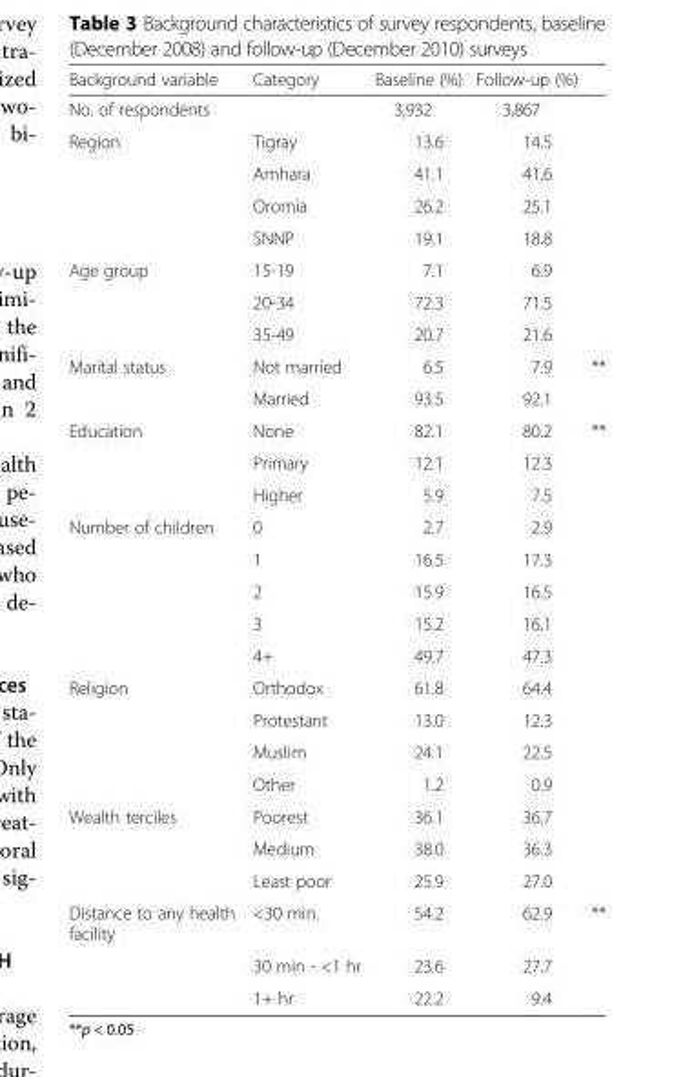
<table><thead><tr><td>Background variable</td><td>Category</td><td>Baseline (%)</td><td>Follow-up (%)</td><td></td></tr></thead><tbody><tr><td>No. of respondents</td><td></td><td>3,932</td><td>3,867</td><td></td></tr><tr><td rowspan="4">Region</td><td>Tigray</td><td>13.6</td><td>14.5</td><td></td></tr><tr><td>Amhara</td><td>41.1</td><td>41.6</td><td></td></tr><tr><td>Oromia</td><td>26.2</td><td>25.1</td><td></td></tr><tr><td>SNNP</td><td>19.1</td><td>18.8</td><td></td></tr><tr><td rowspan="3">Age group</td><td>15-19</td><td>7.1</td><td>6.9</td><td></td></tr><tr><td>20-34</td><td>72.3</td><td>71.5</td><td></td></tr><tr><td>35-49</td><td>20.7</td><td>21.6</td><td></td></tr><tr><td rowspan="2">Marital status</td><td>Not married</td><td>6.5</td><td>7.9</td><td>**</td></tr><tr><td>Married</td><td>93.5</td><td>92.1</td><td></td></tr><tr><td rowspan="3">Education</td><td>None</td><td>82.1</td><td>80.2</td><td>**</td></tr><tr><td>Primary</td><td>12.1</td><td>12.3</td><td></td></tr><tr><td>Higher</td><td>5.9</td><td>7.5</td><td></td></tr><tr><td rowspan="5">Number of children</td><td>0</td><td>2.7</td><td>2.9</td><td></td></tr><tr><td>1</td><td>16.5</td><td>17.3</td><td></td></tr><tr><td>2</td><td>15.9</td><td>16.5</td><td></td></tr><tr><td>3</td><td>15.2</td><td>16.1</td><td></td></tr><tr><td>4+</td><td>49.7</td><td>47.3</td><td></td></tr><tr><td rowspan="4">Religion</td><td>Orthodox</td><td>61.8</td><td>64.4</td><td></td></tr><tr><td>Protestant</td><td>13.0</td><td>12.3</td><td></td></tr><tr><td>Muslim</td><td>24.1</td><td>22.5</td><td></td></tr><tr><td>Other</td><td>1.2</td><td>0.9</td><td></td></tr><tr><td rowspan="3">Wealth terciles</td><td>Poorest</td><td>36.1</td><td>36.7</td><td></td></tr><tr><td>Medium</td><td>38.0</td><td>36.3</td><td></td></tr><tr><td>Least poor</td><td>25.9</td><td>27.0</td><td></td></tr><tr><td rowspan="3">Distance to any health facility</td><td>&lt;30 min.</td><td>54.2</td><td>62.9</td><td>**</td></tr><tr><td>30 min - &lt;1 hr</td><td>23.6</td><td>27.7</td><td></td></tr><tr><td>1+ hr</td><td>22.2</td><td>9.4</td><td></td></tr></tbody></table>